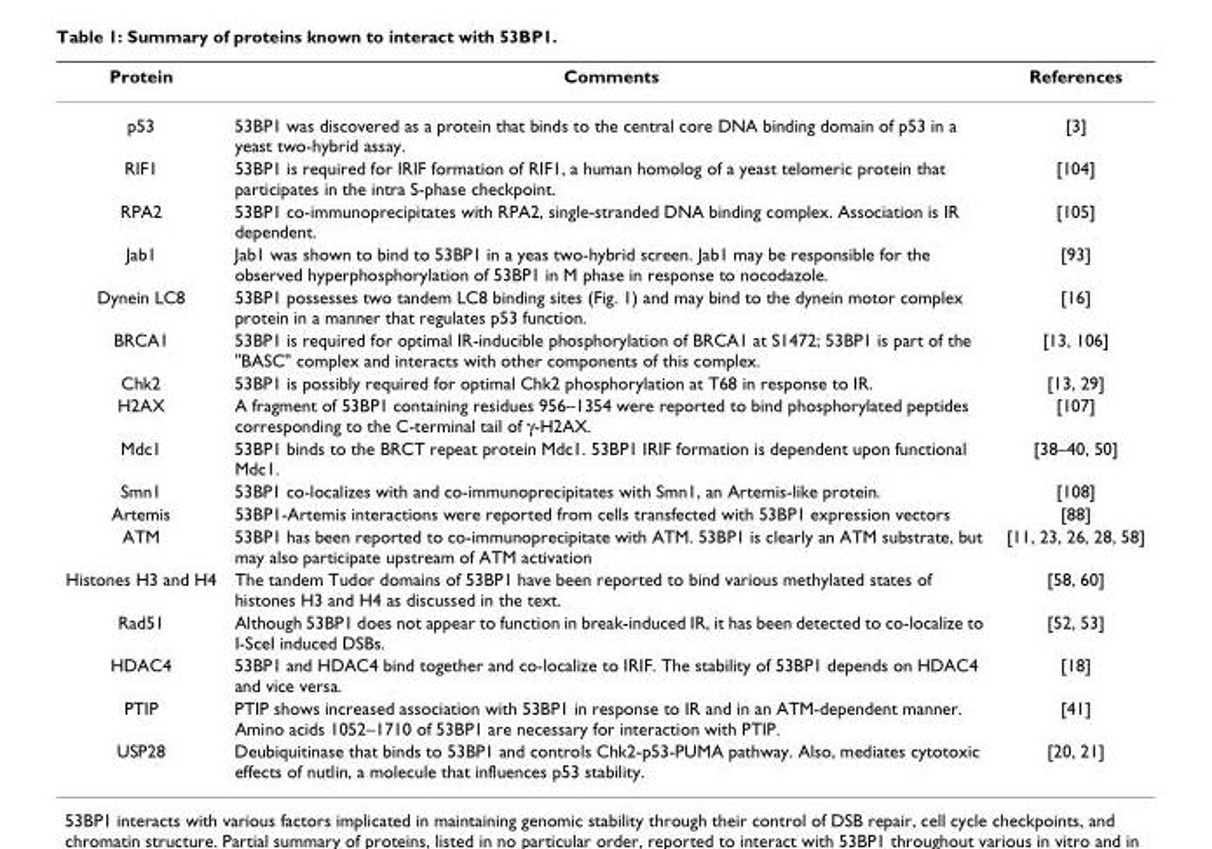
<table><thead><tr><td>Protein</td><td>Comments</td><td>References</td></tr></thead><tbody><tr><td>p53</td><td>53BP1 was discovered as a protein that binds to the central core DNA binding domain of p53 in a yeast two-hybrid assay.</td><td>[3]</td></tr><tr><td>RIF1</td><td>53BP1 is required for IRIF formation of RIF1, a human homolog of a yeast telomeric protein that participates in the intra S-phase checkpoint.</td><td>[104]</td></tr><tr><td>RPA2</td><td>53BP1 co-immunoprecipitates with RPA2, single-stranded DNA binding complex. Association is IR dependent.</td><td>[105]</td></tr><tr><td>Jab1</td><td>Jab1 was shown to bind to 53BP1 in a yeas two-hybrid screen. Jab1 may be responsible for the observed hyperphosphorylation of 53BP1 in M phase in response to nocodazole.</td><td>[93]</td></tr><tr><td>Dynein LC8</td><td>53BP1 possesses two tandem LC8 binding sites (Fig. 1) and may bind to the dynein motor complex protein in a manner that regulates p53 function.</td><td>[16]</td></tr><tr><td>BRCA1</td><td>53BP1 is required for optimal IR-inducible phosphorylation of BRCA1 at S1472; 53BP1 is part of the &quot;BASC&quot; complex and interacts with other components of this complex.</td><td>[13, 106]</td></tr><tr><td>Chk2</td><td>53BP1 is possibly required for optimal Chk2 phosphorylation at T68 in response to IR.</td><td>[13, 29]</td></tr><tr><td>H2AX</td><td>A fragment of 53BP1 containing residues 956–1354 were reported to bind phosphorylated peptides corresponding to the C-terminal tail of γ-H2AX.</td><td>[107]</td></tr><tr><td>Mdc1</td><td>53BP1 binds to the BRCT repeat protein Mdc1. 53BP1 IRIF formation is dependent upon functional Mdc1.</td><td>[38–40, 50]</td></tr><tr><td>Smn1</td><td>53BP1 co-localizes with and co-immunoprecipitates with Smn1, an Artemis-like protein.</td><td>[108]</td></tr><tr><td>Artemis</td><td>53BP1-Artemis interactions were reported from cells transfected with 53BP1 expression vectors</td><td>[88]</td></tr><tr><td>ATM</td><td>53BP1 has been reported to co-immunoprecipitate with ATM. 53BP1 is clearly an ATM substrate, but may also participate upstream of ATM activation</td><td>[11, 23, 26, 28, 58]</td></tr><tr><td>Histones H3 and H4</td><td>The tandem Tudor domains of 53BP1 have been reported to bind various methylated states of histones H3 and H4 as discussed in the text.</td><td>[58, 60]</td></tr><tr><td>Rad51</td><td>Although 53BP1 does not appear to function in break-induced IR, it has been detected to co-localize to I-SceI induced DSBs.</td><td>[52, 53]</td></tr><tr><td>HDAC4</td><td>53BP1 and HDAC4 bind together and co-localize to IRIF. The stability of 53BP1 depends on HDAC4 and vice versa.</td><td>[18]</td></tr><tr><td>PTIP</td><td>PTIP shows increased association with 53BP1 in response to IR and in an ATM-dependent manner. Amino acids 1052–1710 of 53BP1 are necessary for interaction with PTIP.</td><td>[41]</td></tr><tr><td>USP28</td><td>Deubiquitinase that binds to 53BP1 and controls Chk2-p53-PUMA pathway. Also, mediates cytotoxic effects of nutlin, a molecule that influences p53 stability.</td><td>[20, 21]</td></tr></tbody></table>